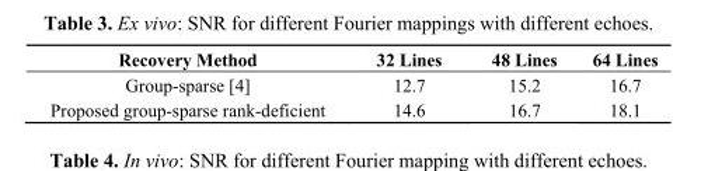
<table><thead><tr><td>Recovery Method</td><td>32 Lines</td><td>48 Lines</td><td>64 Lines</td></tr></thead><tbody><tr><td>Group-sparse [4]</td><td>12.7</td><td>15.2</td><td>16.7</td></tr><tr><td>Proposed group-sparse rank-deficient</td><td>14.6</td><td>16.7</td><td>18.1</td></tr></tbody></table>